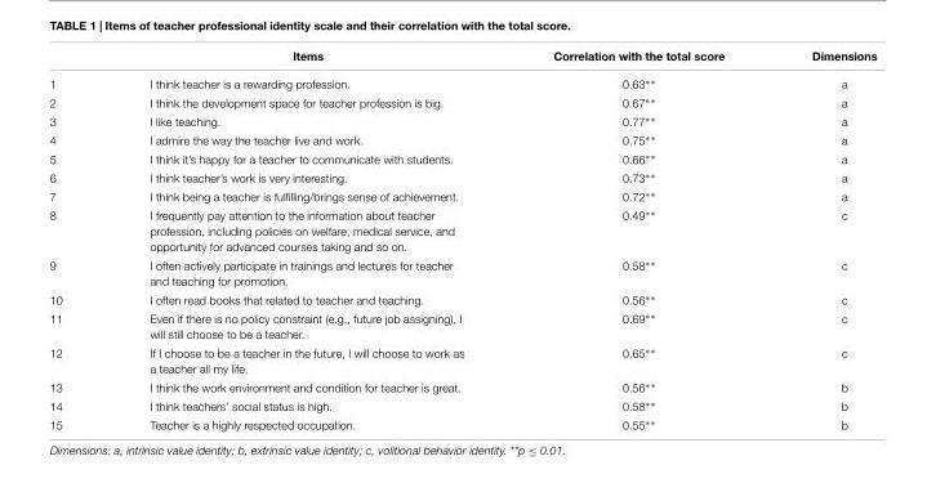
<table><thead><tr><td></td><td>Items</td><td>Correlation with the total score</td><td>Dimensions</td></tr></thead><tbody><tr><td>1</td><td>I think teacher is a rewarding profession.</td><td>0.63∗∗</td><td>a</td></tr><tr><td>2</td><td>I think the development space for teacher profession is big.</td><td>0.67∗∗</td><td>a</td></tr><tr><td>3</td><td>I like teaching.</td><td>0.77∗∗</td><td>a</td></tr><tr><td>4</td><td>I admire the way the teacher live and work.</td><td>0.75∗∗</td><td>a</td></tr><tr><td>5</td><td>I think it’s happy for a teacher to communicate with students.</td><td>0.66∗∗</td><td>a</td></tr><tr><td>6</td><td>I think teacher’s work is very interesting.</td><td>0.73∗∗</td><td>a</td></tr><tr><td>7</td><td>I think being a teacher is fulfilling/brings sense of achievement.</td><td>0.72∗∗</td><td>a</td></tr><tr><td>8</td><td>I frequently pay attention to the information about teacher profession, including policies on welfare, medical service, and opportunity for advanced courses taking and so on.</td><td>0.49∗∗</td><td>c</td></tr><tr><td>9</td><td>I often actively participate in trainings and lectures for teacher and teaching for promotion.</td><td>0.58∗∗</td><td>c</td></tr><tr><td>10</td><td>I often read books that related to teacher and teaching.</td><td>0.56∗∗</td><td>c</td></tr><tr><td>11</td><td>Even if there is no policy constraint (e.g., future job assigning), I will still choose to be a teacher.</td><td>0.69∗∗</td><td>c</td></tr><tr><td>12</td><td>If I choose to be a teacher in the future, I will choose to work as a teacher all my life.</td><td>0.65∗∗</td><td>c</td></tr><tr><td>13</td><td>I think the work environment and condition for teacher is great.</td><td>0.56∗∗</td><td>b</td></tr><tr><td>14</td><td>I think teachers’ social status is high.</td><td>0.58∗∗</td><td>b</td></tr><tr><td>15</td><td>Teacher is a highly respected occupation.</td><td>0.55∗∗</td><td>b</td></tr></tbody></table>